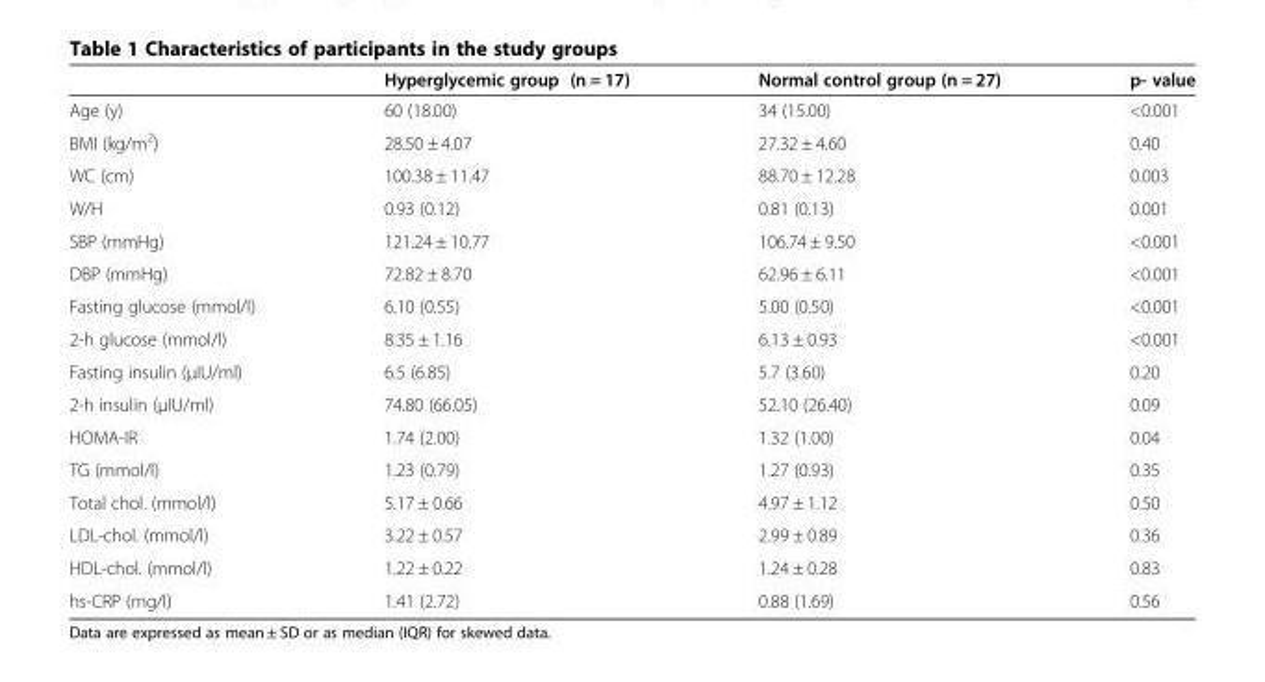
<table><thead><tr><td></td><td>Hyperglycemic group (n = 17)</td><td>Normal control group (n = 27)</td><td>p- value</td></tr></thead><tbody><tr><td>Age (y)</td><td>60 (18.00)</td><td>34 (15.00)</td><td>&lt;0.001</td></tr><tr><td>BMI (kg/m<sup>2</sup>)</td><td>28.50 ± 4.07</td><td>27.32 ± 4.60</td><td>0.40</td></tr><tr><td>WC (cm)</td><td>100.38 ± 11.47</td><td>88.70 ± 12.28</td><td>0.003</td></tr><tr><td>W/H</td><td>0.93 (0.12)</td><td>0.81 (0.13)</td><td>0.001</td></tr><tr><td>SBP (mmHg)</td><td>121.24 ± 10.77</td><td>106.74 ± 9.50</td><td>&lt;0.001</td></tr><tr><td>DBP (mmHg)</td><td>72.82 ± 8.70</td><td>62.96 ± 6.11</td><td>&lt;0.001</td></tr><tr><td>Fasting glucose (mmol/l)</td><td>6.10 (0.55)</td><td>5.00 (0.50)</td><td>&lt;0.001</td></tr><tr><td>2-h glucose (mmol/l)</td><td>8.35 ± 1.16</td><td>6.13 ± 0.93</td><td>&lt;0.001</td></tr><tr><td>Fasting insulin (μIU/ml)</td><td>6.5 (6.85)</td><td>5.7 (3.60)</td><td>0.20</td></tr><tr><td>2-h insulin (μIU/ml)</td><td>74.80 (66.05)</td><td>52.10 (26.40)</td><td>0.09</td></tr><tr><td>HOMA-IR</td><td>1.74 (2.00)</td><td>1.32 (1.00)</td><td>0.04</td></tr><tr><td>TG (mmol/l)</td><td>1.23 (0.79)</td><td>1.27 (0.93)</td><td>0.35</td></tr><tr><td>Total chol. (mmol/l)</td><td>5.17 ± 0.66</td><td>4.97 ± 1.12</td><td>0.50</td></tr><tr><td>LDL-chol. (mmol/l)</td><td>3.22 ± 0.57</td><td>2.99 ± 0.89</td><td>0.36</td></tr><tr><td>HDL-chol. (mmol/l)</td><td>1.22 ± 0.22</td><td>1.24 ± 0.28</td><td>0.83</td></tr><tr><td>hs-CRP (mg/l)</td><td>1.41 (2.72)</td><td>0.88 (1.69)</td><td>0.56</td></tr></tbody></table>